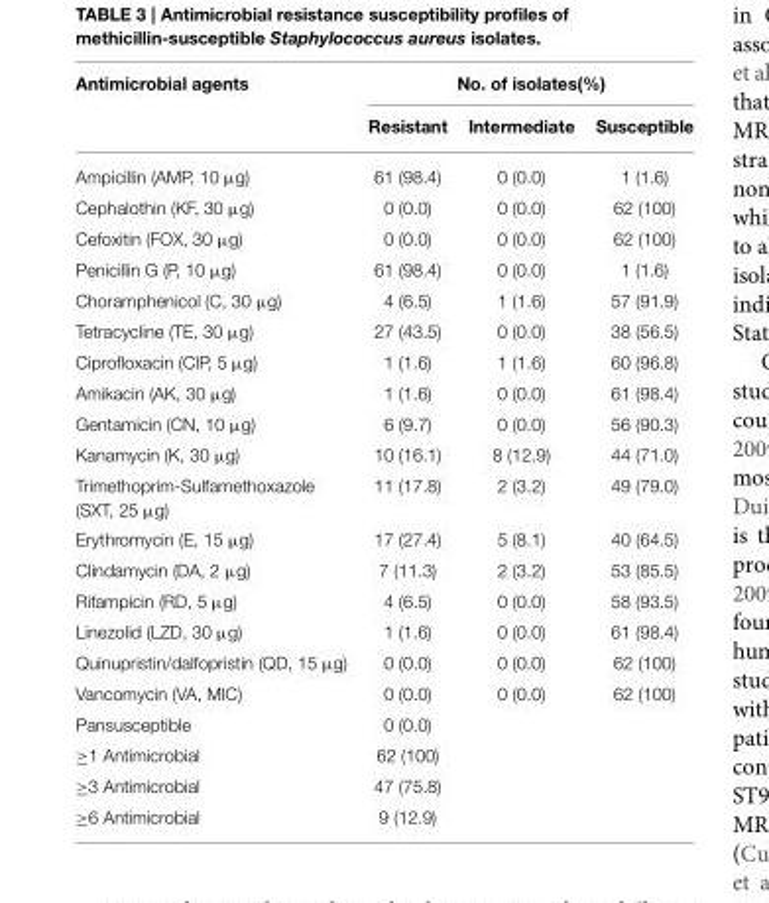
<table><thead><tr><td rowspan="2">Antimicrobial agents</td><td colspan="3">No. of isolates(%)</td></tr><tr><td>Resistant</td><td>Intermediate</td><td>Susceptible</td></tr></thead><tbody><tr><td>Ampicillin (AMP, 10 µg)</td><td>61 (98.4)</td><td>0 (0.0)</td><td>1 (1.6)</td></tr><tr><td>Cephalothin (KF, 30 µg)</td><td>0 (0.0)</td><td>0 (0.0)</td><td>62 (100)</td></tr><tr><td>Cefoxitin (FOX, 30 µg)</td><td>0 (0.0)</td><td>0 (0.0)</td><td>62 (100)</td></tr><tr><td>Penicillin G (P, 10 µg)</td><td>61 (98.4)</td><td>0 (0.0)</td><td>1 (1.6)</td></tr><tr><td>Choramphenicol (C, 30 µg)</td><td>4 (6.5)</td><td>1 (1.6)</td><td>57 (91.9)</td></tr><tr><td>Tetracycline (TE, 30 µg)</td><td>27 (43.5)</td><td>0 (0.0)</td><td>38 (56.5)</td></tr><tr><td>Ciprofloxacin (CIP, 5 µg)</td><td>1 (1.6)</td><td>1 (1.6)</td><td>60 (96.8)</td></tr><tr><td>Amikacin (AK, 30 µg)</td><td>1 (1.6)</td><td>0 (0.0)</td><td>61 (98.4)</td></tr><tr><td>Gentamicin (CN, 10 µg)</td><td>6 (9.7)</td><td>0 (0.0)</td><td>56 (90.3)</td></tr><tr><td>Kanamycin (K, 30 µg)</td><td>10 (16.1)</td><td>8 (12.9)</td><td>44 (71.0)</td></tr><tr><td>Trimethoprim-Sulfamethoxazole (SXT, 25 µg)</td><td>11 (17.8)</td><td>2 (3.2)</td><td>49 (79.0)</td></tr><tr><td>Erythromycin (E, 15 µg)</td><td>17 (27.4)</td><td>5 (8.1)</td><td>40 (64.5)</td></tr><tr><td>Clindamycin (DA, 2 µg)</td><td>7 (11.3)</td><td>2 (3.2)</td><td>53 (85.5)</td></tr><tr><td>Rifampicin (RD, 5 µg)</td><td>4 (6.5)</td><td>0 (0.0)</td><td>58 (93.5)</td></tr><tr><td>Linezolid (LZD, 30 µg)</td><td>1 (1.6)</td><td>0 (0.0)</td><td>61 (98.4)</td></tr><tr><td>Quinupristin/dalfopristin (QD, 15 µg)</td><td>0 (0.0)</td><td>0 (0.0)</td><td>62 (100)</td></tr><tr><td>Vancomycin (VA, MIC)</td><td>0 (0.0)</td><td>0 (0.0)</td><td>62 (100)</td></tr><tr><td>Pansusceptible</td><td>0 (0.0)</td><td></td><td></td></tr><tr><td>≥1 Antimicrobial</td><td>62 (100)</td><td></td><td></td></tr><tr><td>≥3 Antimicrobial</td><td>47 (75.8)</td><td></td><td></td></tr><tr><td>≥6 Antimicrobial</td><td>9 (12.9)</td><td></td><td></td></tr></tbody></table>